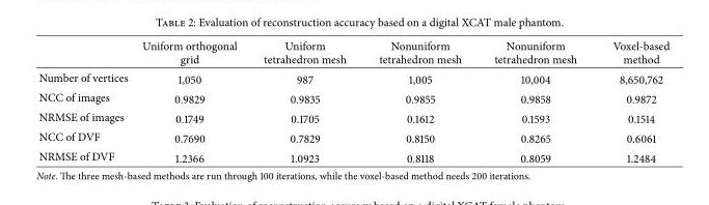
<table><thead><tr><td></td><td>Uniform orthogonal grid</td><td>Uniform tetrahedron mesh</td><td>Nonuniform tetrahedron mesh</td><td>Nonuniform tetrahedron mesh</td><td>Voxel-based method</td></tr></thead><tbody><tr><td>Number of vertices</td><td>1,050</td><td>987</td><td>1,005</td><td>10,004</td><td>8,650,762</td></tr><tr><td>NCC of images</td><td>0.9829</td><td>0.9835</td><td>0.9855</td><td>0.9858</td><td>0.9872</td></tr><tr><td>NRMSE of images</td><td>0.1749</td><td>0.1705</td><td>0.1612</td><td>0.1593</td><td>0.1514</td></tr><tr><td>NCC of DVF</td><td>0.7690</td><td>0.7829</td><td>0.8150</td><td>0.8265</td><td>0.6061</td></tr><tr><td>NRMSE of DVF</td><td>1.2366</td><td>1.0923</td><td>0.8118</td><td>0.8059</td><td>1.2484</td></tr></tbody></table>